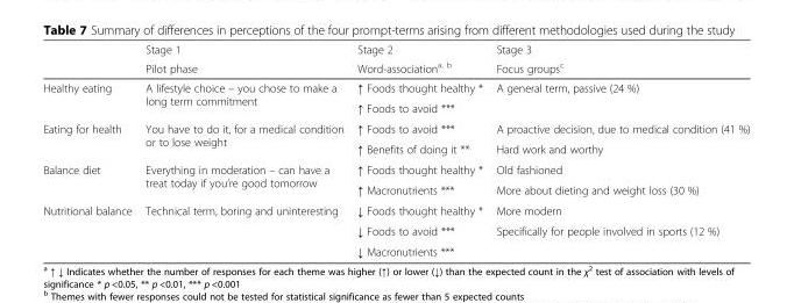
<table><thead><tr><td rowspan="2"></td><td rowspan="2">Stage 1 Pilot phase</td><td rowspan="2">Stage 2 Word-association<sup>a, b</sup></td><td rowspan="2">Stage 3 Focus groups<sup>c</sup></td></tr><tr></tr></thead><tbody><tr><td rowspan="2">Healthy eating</td><td rowspan="2">A lifestyle choice – you chose to make a long term commitment</td><td>↑ Foods thought healthy *</td><td rowspan="2">A general term, passive (24 %)</td></tr><tr><td>↑ Foods to avoid ***</td></tr><tr><td rowspan="2">Eating for health</td><td rowspan="2">You have to do it, for a medical condition or to lose weight</td><td>↑ Foods to avoid ***</td><td>A proactive decision, due to medical condition (41 %)</td></tr><tr><td>↑ Benefits of doing it **</td><td>Hard work and worthy</td></tr><tr><td rowspan="2">Balance diet</td><td rowspan="2">Everything in moderation – can have a treat today if you’re good tomorrow</td><td>↑ Foods thought healthy *</td><td>Old fashioned</td></tr><tr><td>↑ Macronutrients ***</td><td>More about dieting and weight loss (30 %)</td></tr><tr><td rowspan="3">Nutritional balance</td><td rowspan="3">Technical term, boring and uninteresting</td><td>↓ Foods thought healthy *</td><td>More modern</td></tr><tr><td>↓ Foods to avoid ***</td><td rowspan="2">Specifically for people involved in sports (12 %)</td></tr><tr><td>↓ Macronutrients ***</td></tr></tbody></table>